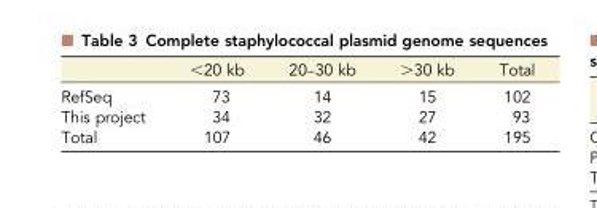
<table><thead><tr><td></td><td>&lt;20 kb</td><td>20–30 kb</td><td>&gt;30 kb</td><td>Total</td></tr></thead><tbody><tr><td>RefSeq</td><td>73</td><td>14</td><td>15</td><td>102</td></tr><tr><td>This project</td><td>34</td><td>32</td><td>27</td><td>93</td></tr><tr><td>Total</td><td>107</td><td>46</td><td>42</td><td>195</td></tr></tbody></table>